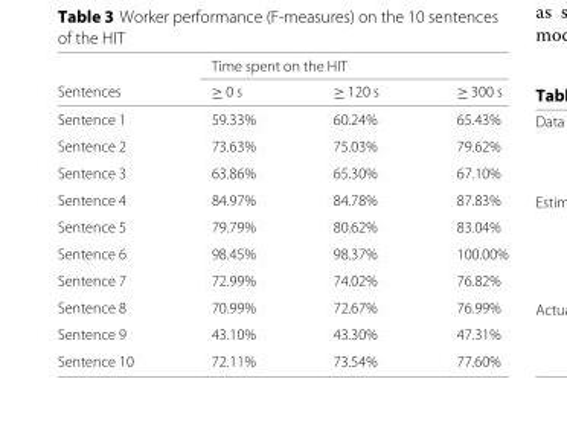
<table><thead><tr><td rowspan="2">Sentences</td><td colspan="3">Time spent on the HIT</td></tr><tr><td>≥ 0 s</td><td>≥ 120 s</td><td>≥ 300 s</td></tr></thead><tbody><tr><td>Sentence 1</td><td>59.33%</td><td>60.24%</td><td>65.43%</td></tr><tr><td>Sentence 2</td><td>73.63%</td><td>75.03%</td><td>79.62%</td></tr><tr><td>Sentence 3</td><td>63.86%</td><td>65.30%</td><td>67.10%</td></tr><tr><td>Sentence 4</td><td>84.97%</td><td>84.78%</td><td>87.83%</td></tr><tr><td>Sentence 5</td><td>79.79%</td><td>80.62%</td><td>83.04%</td></tr><tr><td>Sentence 6</td><td>98.45%</td><td>98.37%</td><td>100.00%</td></tr><tr><td>Sentence 7</td><td>72.99%</td><td>74.02%</td><td>76.82%</td></tr><tr><td>Sentence 8</td><td>70.99%</td><td>72.67%</td><td>76.99%</td></tr><tr><td>Sentence 9</td><td>43.10%</td><td>43.30%</td><td>47.31%</td></tr><tr><td>Sentence 10</td><td>72.11%</td><td>73.54%</td><td>77.60%</td></tr></tbody></table>